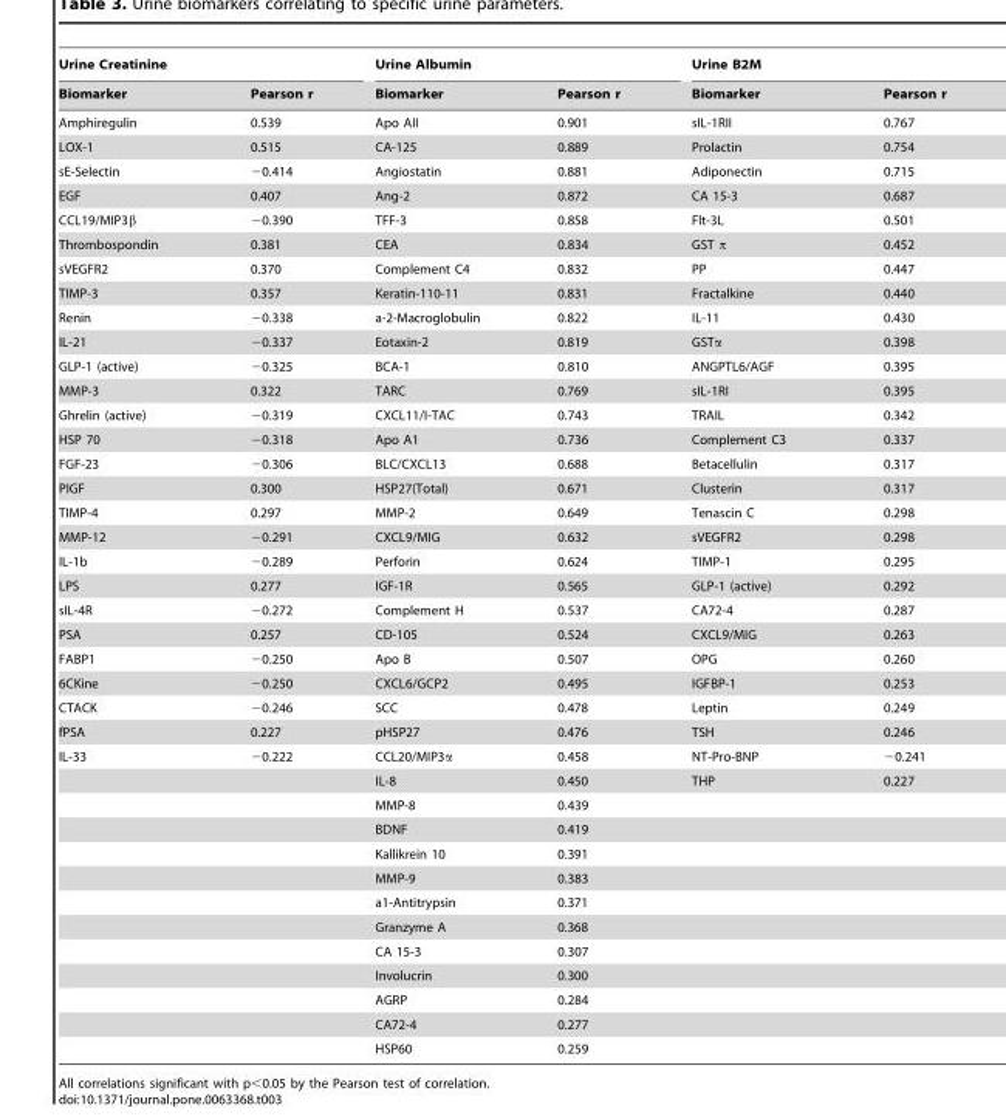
<table><thead><tr><td colspan="2">Urine Creatinine</td><td colspan="2">Urine Albumin</td><td colspan="2">Urine B2M</td></tr><tr><td>Biomarker</td><td>Pearson r</td><td>Biomarker</td><td>Pearson r</td><td>Biomarker</td><td>Pearson r</td></tr></thead><tbody><tr><td>Amphiregulin</td><td>0.539</td><td>Apo AII</td><td>0.901</td><td>sIL-1RII</td><td>0.767</td></tr><tr><td>LOX-1</td><td>0.515</td><td>CA-125</td><td>0.889</td><td>Prolactin</td><td>0.754</td></tr><tr><td>sE-Selectin</td><td>−0.414</td><td>Angiostatin</td><td>0.881</td><td>Adiponectin</td><td>0.715</td></tr><tr><td>EGF</td><td>0.407</td><td>Ang-2</td><td>0.872</td><td>CA 15-3</td><td>0.687</td></tr><tr><td>CCL19/MIP3β</td><td>−0.390</td><td>TFF-3</td><td>0.858</td><td>Flt-3L</td><td>0.501</td></tr><tr><td>Thrombospondin</td><td>0.381</td><td>CEA</td><td>0.834</td><td>GST π</td><td>0.452</td></tr><tr><td>sVEGFR2</td><td>0.370</td><td>Complement C4</td><td>0.832</td><td>PP</td><td>0.447</td></tr><tr><td>TIMP-3</td><td>0.357</td><td>Keratin-110-11</td><td>0.831</td><td>Fractalkine</td><td>0.440</td></tr><tr><td>Renin</td><td>−0.338</td><td>a-2-Macroglobulin</td><td>0.822</td><td>IL-11</td><td>0.430</td></tr><tr><td>IL-21</td><td>−0.337</td><td>Eotaxin-2</td><td>0.819</td><td>GSTα</td><td>0.398</td></tr><tr><td>GLP-1 (active)</td><td>−0.325</td><td>BCA-1</td><td>0.810</td><td>ANGPTL6/AGF</td><td>0.395</td></tr><tr><td>MMP-3</td><td>0.322</td><td>TARC</td><td>0.769</td><td>sIL-1RI</td><td>0.395</td></tr><tr><td>Ghrelin (active)</td><td>−0.319</td><td>CXCL11/I-TAC</td><td>0.743</td><td>TRAIL</td><td>0.342</td></tr><tr><td>HSP 70</td><td>−0.318</td><td>Apo A1</td><td>0.736</td><td>Complement C3</td><td>0.337</td></tr><tr><td>FGF-23</td><td>−0.306</td><td>BLC/CXCL13</td><td>0.688</td><td>Betacellulin</td><td>0.317</td></tr><tr><td>PIGF</td><td>0.300</td><td>HSP27(Total)</td><td>0.671</td><td>Clusterin</td><td>0.317</td></tr><tr><td>TIMP-4</td><td>0.297</td><td>MMP-2</td><td>0.649</td><td>Tenascin C</td><td>0.298</td></tr><tr><td>MMP-12</td><td>−0.291</td><td>CXCL9/MIG</td><td>0.632</td><td>sVEGFR2</td><td>0.298</td></tr><tr><td>IL-1b</td><td>−0.289</td><td>Perforin</td><td>0.624</td><td>TIMP-1</td><td>0.295</td></tr><tr><td>LPS</td><td>0.277</td><td>IGF-1R</td><td>0.565</td><td>GLP-1 (active)</td><td>0.292</td></tr><tr><td>sIL-4R</td><td>−0.272</td><td>Complement H</td><td>0.537</td><td>CA72-4</td><td>0.287</td></tr><tr><td>PSA</td><td>0.257</td><td>CD-105</td><td>0.524</td><td>CXCL9/MIG</td><td>0.263</td></tr><tr><td>FABP1</td><td>−0.250</td><td>Apo B</td><td>0.507</td><td>OPG</td><td>0.260</td></tr><tr><td>6CKine</td><td>−0.250</td><td>CXCL6/GCP2</td><td>0.495</td><td>IGFBP-1</td><td>0.253</td></tr><tr><td>CTACK</td><td>−0.246</td><td>SCC</td><td>0.478</td><td>Leptin</td><td>0.249</td></tr><tr><td>fPSA</td><td>0.227</td><td>pHSP27</td><td>0.476</td><td>TSH</td><td>0.246</td></tr><tr><td rowspan="13">IL-33</td><td>−0.222</td><td>CCL20/MIP3α</td><td>0.458</td><td>NT-Pro-BNP</td><td>−0.241</td></tr><tr><td></td><td>IL-8</td><td>0.450</td><td>THP</td><td>0.227</td></tr><tr><td></td><td>MMP-8</td><td>0.439</td><td></td><td></td></tr><tr><td></td><td>BDNF</td><td>0.419</td><td></td><td></td></tr><tr><td></td><td>Kallikrein 10</td><td>0.391</td><td></td><td></td></tr><tr><td></td><td>MMP-9</td><td>0.383</td><td></td><td></td></tr><tr><td></td><td>a1-Antitrypsin</td><td>0.371</td><td></td><td></td></tr><tr><td></td><td>Granzyme A</td><td>0.368</td><td></td><td></td></tr><tr><td></td><td>CA 15-3</td><td>0.307</td><td></td><td></td></tr><tr><td></td><td>Involucrin</td><td>0.300</td><td></td><td></td></tr><tr><td></td><td>AGRP</td><td>0.284</td><td></td><td></td></tr><tr><td></td><td>CA72-4</td><td>0.277</td><td></td><td></td></tr><tr><td></td><td>HSP60</td><td>0.259</td><td></td><td></td></tr></tbody></table>